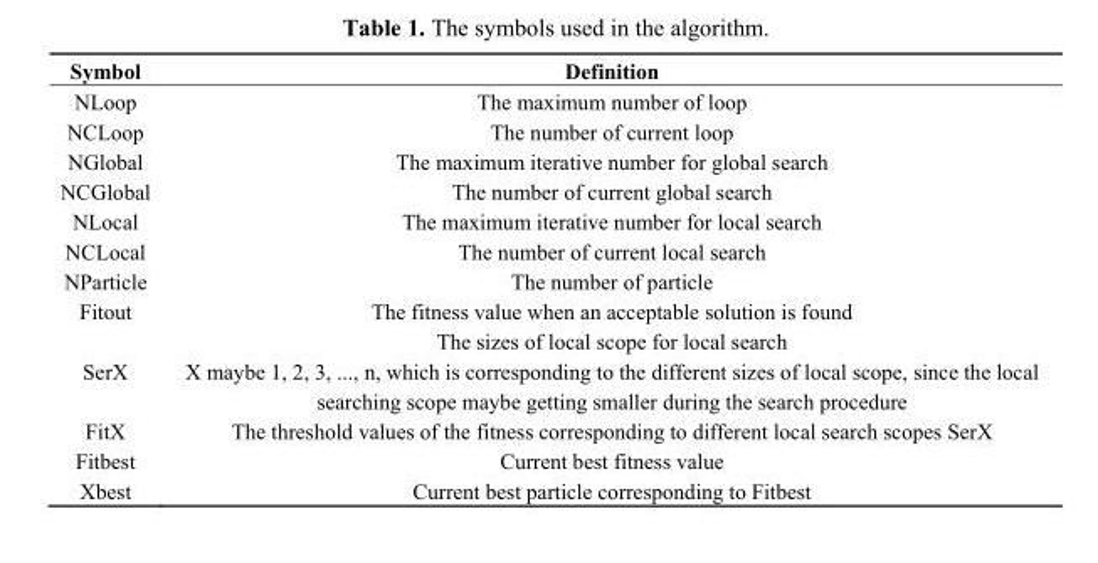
<table><thead><tr><td>Symbol</td><td>Definition</td></tr></thead><tbody><tr><td>NLoop</td><td>The maximum number of loop</td></tr><tr><td>NCLoop</td><td>The number of current loop</td></tr><tr><td>NGlobal</td><td>The maximum iterative number for global search</td></tr><tr><td>NCGlobal</td><td>The number of current global search</td></tr><tr><td>NLocal</td><td>The maximum iterative number for local search</td></tr><tr><td>NCLocal</td><td>The number of current local search</td></tr><tr><td>NParticle</td><td>The number of particle</td></tr><tr><td>Fitout</td><td>The fitness value when an acceptable solution is found</td></tr><tr><td>SerX</td><td>The sizes of local scope for local search X maybe 1, 2, 3, ..., n, which is corresponding to the different sizes of local scope, since the local searching scope maybe getting smaller during the search procedure</td></tr><tr><td>FitX</td><td>The threshold values of the fitness corresponding to different local search scopes SerX</td></tr><tr><td>Fitbest</td><td>Current best fitness value</td></tr><tr><td>Xbest</td><td>Current best particle corresponding to Fitbest</td></tr></tbody></table>